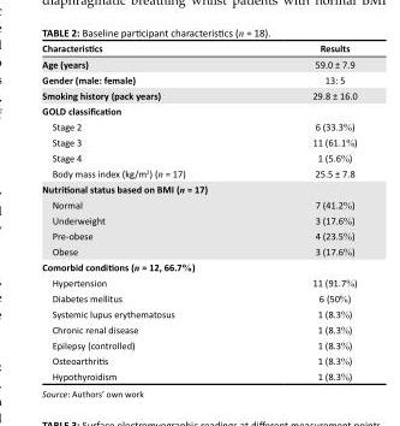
<table><thead><tr><td>Characteristics</td><td>Results</td></tr></thead><tbody><tr><td>Age (years)</td><td>59.0 ± 7.9</td></tr><tr><td>Gender (male: female)</td><td>13: 5</td></tr><tr><td>Smoking history (pack years)</td><td>29.8 ± 16.0</td></tr><tr><td colspan="2">GOLD classification</td></tr><tr><td>Stage 2</td><td>6 (33.3%)</td></tr><tr><td>Stage 3</td><td>11 (61.1%)</td></tr><tr><td>Stage 4</td><td>1 (5.6%)</td></tr><tr><td>Body mass index (kg/m<sup>2</sup>) (n = 17)</td><td>25.5 ± 7.8</td></tr><tr><td colspan="2">Nutritional status based on BMI (n = 17)</td></tr><tr><td>Normal</td><td>7 (41.2%)</td></tr><tr><td>Underweight</td><td>3 (17.6%)</td></tr><tr><td>Pre-obese</td><td>4 (23.5%)</td></tr><tr><td>Obese</td><td>3 (17.6%)</td></tr><tr><td colspan="2">Comorbid conditions (n = 12, 66.7%)</td></tr><tr><td>Hypertension</td><td>11 (91.7%)</td></tr><tr><td>Diabetes mellitus</td><td>6 (50%)</td></tr><tr><td>Systemic lupus erythematosus</td><td>1 (8.3%)</td></tr><tr><td>Chronic renal disease</td><td>1 (8.3%)</td></tr><tr><td>Epilepsy (controlled)</td><td>1 (8.3%)</td></tr><tr><td>Osteoarthritis</td><td>1 (8.3%)</td></tr><tr><td>Hypothyroidism</td><td>1 (8.3%)</td></tr></tbody></table>